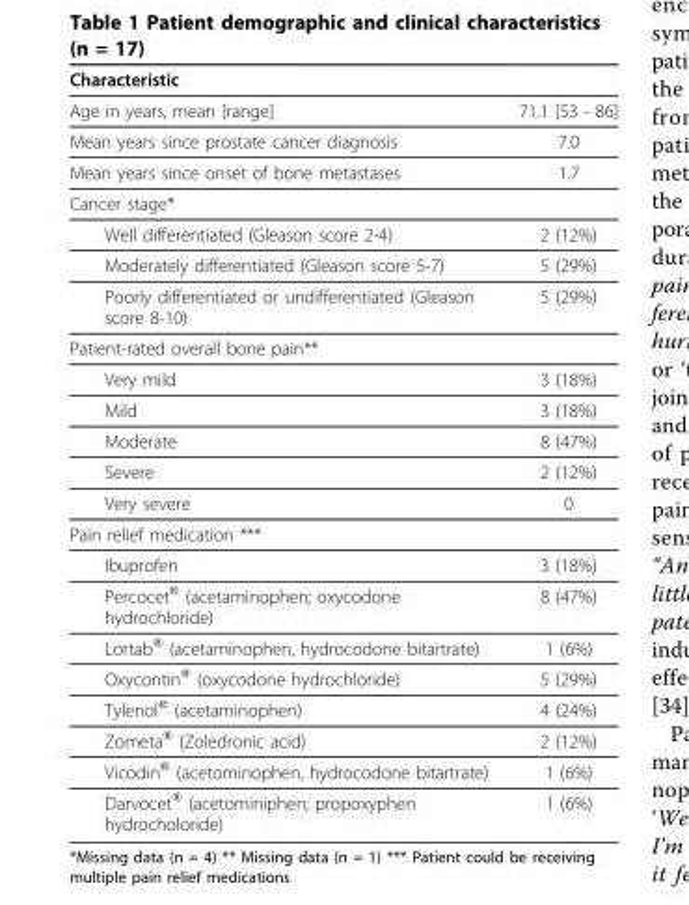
<table><thead><tr><td>Characteristic</td><td></td></tr></thead><tbody><tr><td>Age in years, mean [range]</td><td>71.1 [53 - 86]</td></tr><tr><td>Mean years since prostate cancer diagnosis</td><td>7.0</td></tr><tr><td>Mean years since onset of bone metastases</td><td>1.7</td></tr><tr><td colspan="2">Cancer stage*</td></tr><tr><td>Well differentiated (Gleason score 2-4)</td><td>2 (12%)</td></tr><tr><td>Moderately differentiated (Gleason score 5-7)</td><td>5 (29%)</td></tr><tr><td>Poorly differentiated or undifferentiated (Gleason score 8-10)</td><td>5 (29%)</td></tr><tr><td colspan="2">Patient-rated overall bone pain**</td></tr><tr><td>Very mild</td><td>3 (18%)</td></tr><tr><td>Mild</td><td>3 (18%)</td></tr><tr><td>Moderate</td><td>8 (47%)</td></tr><tr><td>Severe</td><td>2 (12%)</td></tr><tr><td>Very severe</td><td>0</td></tr><tr><td colspan="2">Pain relief medication ***</td></tr><tr><td>Ibuprofen</td><td>3 (18%)</td></tr><tr><td>Percocet<sup>®</sup> (acetaminophen; oxycodone hydrochloride)</td><td>8 (47%)</td></tr><tr><td>Lortab<sup>®</sup> (acetaminophen, hydrocodone bitartrate)</td><td>1 (6%)</td></tr><tr><td>Oxycontin<sup>®</sup> (oxycodone hydrochloride)</td><td>5 (29%)</td></tr><tr><td>Tylenol<sup>®</sup> (acetaminophen)</td><td>4 (24%)</td></tr><tr><td>Zometa<sup>®</sup> (Zoledronic acid)</td><td>2 (12%)</td></tr><tr><td>Vicodin<sup>®</sup> (acetominophen, hydrocodone bitartrate)</td><td>1 (6%)</td></tr><tr><td>Darvocet<sup>®</sup> (acetominiphen; propoxyphen hydrocholoride)</td><td>1 (6%)</td></tr></tbody></table>